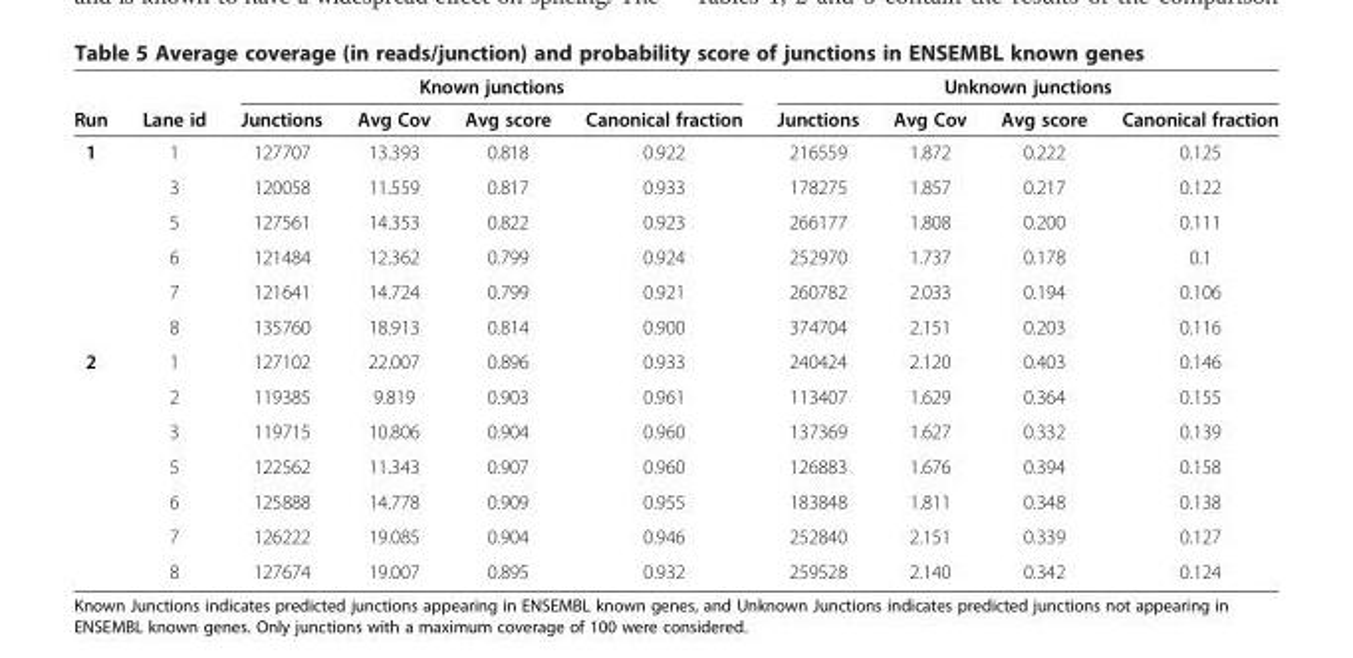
<table><thead><tr><td rowspan="2">Run</td><td rowspan="2">Lane id</td><td colspan="4">Known junctions</td><td colspan="4">Unknown junctions</td></tr><tr><td>Junctions</td><td>Avg Cov</td><td>Avg score</td><td>Canonical fraction</td><td>Junctions</td><td>Avg Cov</td><td>Avg score</td><td>Canonical fraction</td></tr></thead><tbody><tr><td rowspan="6">1</td><td>1</td><td>127707</td><td>13.393</td><td>0.818</td><td>0.922</td><td>216559</td><td>1.872</td><td>0.222</td><td>0.125</td></tr><tr><td>3</td><td>120058</td><td>11.559</td><td>0.817</td><td>0.933</td><td>178275</td><td>1.857</td><td>0.217</td><td>0.122</td></tr><tr><td>5</td><td>127561</td><td>14.353</td><td>0.822</td><td>0.923</td><td>266177</td><td>1.808</td><td>0.200</td><td>0.111</td></tr><tr><td>6</td><td>121484</td><td>12.362</td><td>0.799</td><td>0.924</td><td>252970</td><td>1.737</td><td>0.178</td><td>0.1</td></tr><tr><td>7</td><td>121641</td><td>14.724</td><td>0.799</td><td>0.921</td><td>260782</td><td>2.033</td><td>0.194</td><td>0.106</td></tr><tr><td>8</td><td>135760</td><td>18.913</td><td>0.814</td><td>0.900</td><td>374704</td><td>2.151</td><td>0.203</td><td>0.116</td></tr><tr><td rowspan="7">2</td><td>1</td><td>127102</td><td>22.007</td><td>0.896</td><td>0.933</td><td>240424</td><td>2.120</td><td>0.403</td><td>0.146</td></tr><tr><td>2</td><td>119385</td><td>9.819</td><td>0.903</td><td>0.961</td><td>113407</td><td>1.629</td><td>0.364</td><td>0.155</td></tr><tr><td>3</td><td>119715</td><td>10.806</td><td>0.904</td><td>0.960</td><td>137369</td><td>1.627</td><td>0.332</td><td>0.139</td></tr><tr><td>5</td><td>122562</td><td>11.343</td><td>0.907</td><td>0.960</td><td>126883</td><td>1.676</td><td>0.394</td><td>0.158</td></tr><tr><td>6</td><td>125888</td><td>14.778</td><td>0.909</td><td>0.955</td><td>183848</td><td>1.811</td><td>0.348</td><td>0.138</td></tr><tr><td>7</td><td>126222</td><td>19.085</td><td>0.904</td><td>0.946</td><td>252840</td><td>2.151</td><td>0.339</td><td>0.127</td></tr><tr><td>8</td><td>127674</td><td>19.007</td><td>0.895</td><td>0.932</td><td>259528</td><td>2.140</td><td>0.342</td><td>0.124</td></tr></tbody></table>